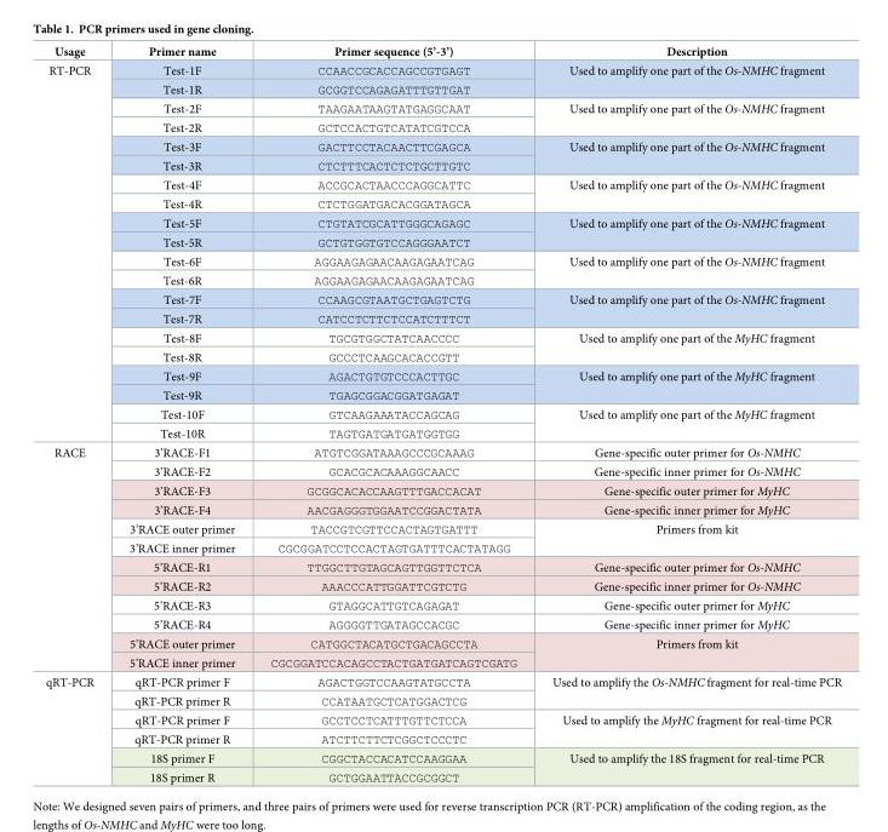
<table><thead><tr><td>Usage</td><td>Primer name</td><td>Primer sequence (5’-3’)</td><td>Description</td></tr></thead><tbody><tr><td rowspan="20">RT-PCR</td><td>Test-1F</td><td>CCAACCGCACCAGCCGTGAGT</td><td rowspan="2">Used to amplify one part of the Os-NMHC fragment</td></tr><tr><td>Test-1R</td><td>GCGGTCCAGAGATTTGTTGAT</td></tr><tr><td>Test-2F</td><td>TAAGAATAAGTATGAGGCAAT</td><td rowspan="2">Used to amplify one part of the Os-NMHC fragment</td></tr><tr><td>Test-2R</td><td>GCTCCACTGTCATATCGTCCA</td></tr><tr><td>Test-3F</td><td>GACTTCCTACAACTTCGAGCA</td><td rowspan="2">Used to amplify one part of the Os-NMHC fragment</td></tr><tr><td>Test-3R</td><td>CTCTTTCACTCTCTGCTTGTC</td></tr><tr><td>Test-4F</td><td>ACCGCACTAACCCAGGCATTC</td><td rowspan="2">Used to amplify one part of the Os-NMHC fragment</td></tr><tr><td>Test-4R</td><td>CTCTGGATGACACGGATAGCA</td></tr><tr><td>Test-5F</td><td>CTGTATCGCATTGGGCAGAGC</td><td rowspan="2">Used to amplify one part of the Os-NMHC fragment</td></tr><tr><td>Test-5R</td><td>GCTGTGGTGTCCAGGGAATCT</td></tr><tr><td>Test-6F</td><td>AGGAAGAGAACAAGAGAATCAG</td><td rowspan="2">Used to amplify one part of the Os-NMHC fragment</td></tr><tr><td>Test-6R</td><td>AGGAAGAGAACAAGAGAATCAG</td></tr><tr><td>Test-7F</td><td>CCAAGCGTAATGCTGAGTCTG</td><td rowspan="2">Used to amplify one part of the Os-NMHC fragment</td></tr><tr><td>Test-7R</td><td>CATCCTCTTCTCCATCTTTCT</td></tr><tr><td>Test-8F</td><td>TGCGTGGCTATCAACCCC</td><td rowspan="2">Used to amplify one part of the MyHC fragment</td></tr><tr><td>Test-8R</td><td>GCCCTCAAGCACACCGTT</td></tr><tr><td>Test-9F</td><td>AGACTGTGTCCCACTTGC</td><td rowspan="2">Used to amplify one part of the MyHC fragment</td></tr><tr><td>Test-9R</td><td>TGAGCGGACGGATGAGAT</td></tr><tr><td>Test-10F</td><td>GTCAAGAAATACCAGCAG</td><td rowspan="2">Used to amplify one part of the MyHC fragment</td></tr><tr><td>Test-10R</td><td>TAGTGATGATGATGGTGG</td></tr><tr><td rowspan="12">RACE</td><td>3’RACE-F1</td><td>ATGTCGGATAAAGCCCGCAAAG</td><td>Gene-specific outer primer for Os-NMHC</td></tr><tr><td>3’RACE-F2</td><td>GCACGCACAAAGGCAACC</td><td>Gene-specific inner primer for Os-NMHC</td></tr><tr><td>3’RACE-F3</td><td>GCGGCACACCAAGTTTGACCACAT</td><td>Gene-specific outer primer for MyHC</td></tr><tr><td>3’RACE-F4</td><td>AACGAGGGTGGAATCCGGACTATA</td><td>Gene-specific inner primer for MyHC</td></tr><tr><td>3’RACE outer primer</td><td>TACCGTCGTTCCACTAGTGATTT</td><td rowspan="2">Primers from kit</td></tr><tr><td>3’RACE inner primer</td><td>CGCGGATCCTCCACTAGTGATTTCACTATAGG</td></tr><tr><td>5’RACE-R1</td><td>TTGGCTTGTAGCAGTTGGTTCTCA</td><td>Gene-specific outer primer for Os-NMHC</td></tr><tr><td>5’RACE-R2</td><td>AAACCCATTGGATTCGTCTG</td><td>Gene-specific inner primer for Os-NMHC</td></tr><tr><td>5’RACE-R3</td><td>GTAGGCATTGTCAGAGAT</td><td>Gene-specific outer primer for MyHC</td></tr><tr><td>5’RACE-R4</td><td>AGGGGTTGATAGCCACGC</td><td>Gene-specific inner primer for MyHC</td></tr><tr><td>5’RACE outer primer</td><td>CATGGCTACATGCTGACAGCCTA</td><td rowspan="2">Primers from kit</td></tr><tr><td>5’RACE inner primer</td><td>CGCGGATCCACAGCCTACTGATGATCAGTCGATG</td></tr><tr><td rowspan="6">qRT-PCR</td><td>qRT-PCR primer F</td><td>AGACTGGTCCAAGTATGCCTA</td><td rowspan="2">Used to amplify the Os-NMHC fragment for real-time PCR</td></tr><tr><td>qRT-PCR primer R</td><td>CCATAATGCTCATGGACTCG</td></tr><tr><td>qRT-PCR primer F</td><td>GCCTCCTCATTTGTTCTCCA</td><td rowspan="2">Used to amplify the MyHC fragment for real-time PCR</td></tr><tr><td>qRT-PCR primer R</td><td>ATCTTCTTCTCGGCTCCCTC</td></tr><tr><td>18S primer F</td><td>CGGCTACCACATCCAAGGAA</td><td rowspan="2">Used to amplify the 18S fragment for real-time PCR</td></tr><tr><td>18S primer R</td><td>GCTGGAATTACCGCGGCT</td></tr></tbody></table>